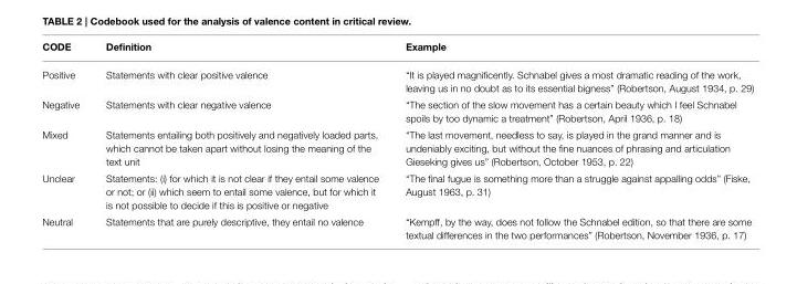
<table><thead><tr><td>CODE</td><td>Definition</td><td>Example</td></tr></thead><tbody><tr><td>Positive</td><td>Statements with clear positive valence</td><td>“It is played magnificently. Schnabel gives a most dramatic reading of the work, leaving us in no doubt as to its essential bigness” (Robertson, August 1934, p. 29)</td></tr><tr><td>Negative</td><td>Statements with clear negative valence</td><td>“The section of the slow movement has a certain beauty which I feel Schnabel spoils by too dynamic a treatment” (Robertson, April 1936, p. 18)</td></tr><tr><td>Mixed</td><td>Statements entailing both positively and negatively loaded parts, which cannot be taken apart without losing the meaning of the text unit</td><td>“The last movement, needless to say, is played in the grand manner and is undeniably exciting, but without the fine nuances of phrasing and articulation Gieseking gives us” (Robertson, October 1953, p. 22)</td></tr><tr><td>Unclear</td><td>Statements: (i) for which it is not clear if they entail some valence or not; or (ii) which seem to entail some valence, but for which it is not possible to decide if this is positive or negative</td><td>“The final fugue is something more than a struggle against appalling odds” (Fiske, August 1963, p. 31)</td></tr><tr><td>Neutral</td><td>Statements that are purely descriptive, they entail no valence</td><td>“Kempff, by the way, does not follow the Schnabel edition, so that there are some textual differences in the two performances” (Robertson, November 1936, p. 17)</td></tr></tbody></table>